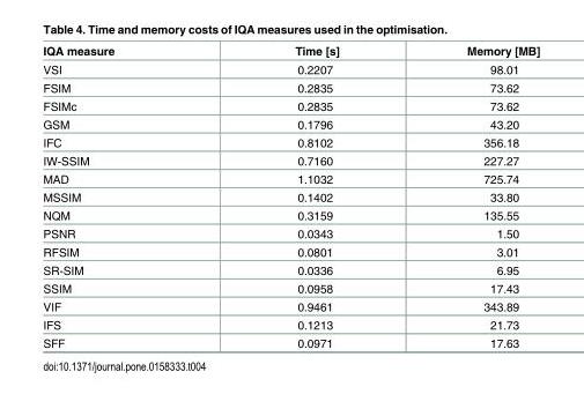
<table><thead><tr><td>IQA measure</td><td>Time [s]</td><td>Memory [MB]</td></tr></thead><tbody><tr><td>VSI</td><td>0.2207</td><td>98.01</td></tr><tr><td>FSIM</td><td>0.2835</td><td>73.62</td></tr><tr><td>FSIMc</td><td>0.2835</td><td>73.62</td></tr><tr><td>GSM</td><td>0.1796</td><td>43.20</td></tr><tr><td>IFC</td><td>0.8102</td><td>356.18</td></tr><tr><td>IW-SSIM</td><td>0.7160</td><td>227.27</td></tr><tr><td>MAD</td><td>1.1032</td><td>725.74</td></tr><tr><td>MSSIM</td><td>0.1402</td><td>33.80</td></tr><tr><td>NQM</td><td>0.3159</td><td>135.55</td></tr><tr><td>PSNR</td><td>0.0343</td><td>1.50</td></tr><tr><td>RFSIM</td><td>0.0801</td><td>3.01</td></tr><tr><td>SR-SIM</td><td>0.0336</td><td>6.95</td></tr><tr><td>SSIM</td><td>0.0958</td><td>17.43</td></tr><tr><td>VIF</td><td>0.9461</td><td>343.89</td></tr><tr><td>IFS</td><td>0.1213</td><td>21.73</td></tr><tr><td>SFF</td><td>0.0971</td><td>17.63</td></tr></tbody></table>